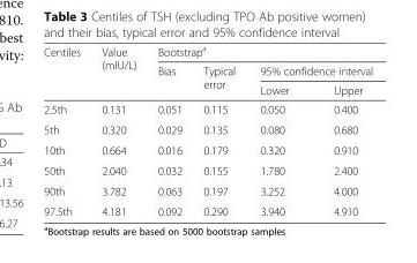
<table><thead><tr><td rowspan="3">Centiles</td><td rowspan="3">Value (mIU/L)</td><td colspan="4">Bootstrap<sup>a</sup></td></tr><tr><td rowspan="2">Bias</td><td rowspan="2">Typical error</td><td colspan="2">95% confidence interval</td></tr><tr><td>Lower</td><td>Upper</td></tr></thead><tbody><tr><td>2.5th</td><td>0.131</td><td>0.051</td><td>0.115</td><td>0.050</td><td>0.400</td></tr><tr><td>5th</td><td>0.320</td><td>0.029</td><td>0.135</td><td>0.080</td><td>0.680</td></tr><tr><td>10th</td><td>0.664</td><td>0.016</td><td>0.179</td><td>0.320</td><td>0.910</td></tr><tr><td>50th</td><td>2.040</td><td>0.032</td><td>0.155</td><td>1.780</td><td>2.400</td></tr><tr><td>90th</td><td>3.782</td><td>0.063</td><td>0.197</td><td>3.252</td><td>4.000</td></tr><tr><td>97.5th</td><td>4.181</td><td>0.092</td><td>0.290</td><td>3.940</td><td>4.910</td></tr></tbody></table>